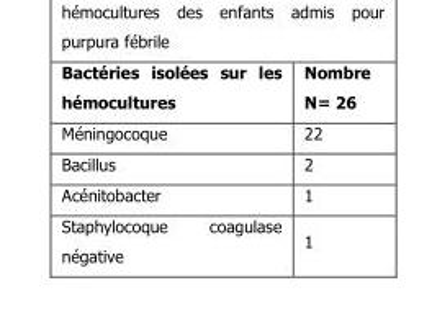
<table><thead><tr><td>Bactéries isolées sur les hémocultures</td><td>Nombre N= 26</td></tr></thead><tbody><tr><td>Méningocoque</td><td>22</td></tr><tr><td>Bacillus</td><td>2</td></tr><tr><td>Acénitobacter</td><td>1</td></tr><tr><td>Staphylocoque coagulase négative</td><td>1</td></tr></tbody></table>